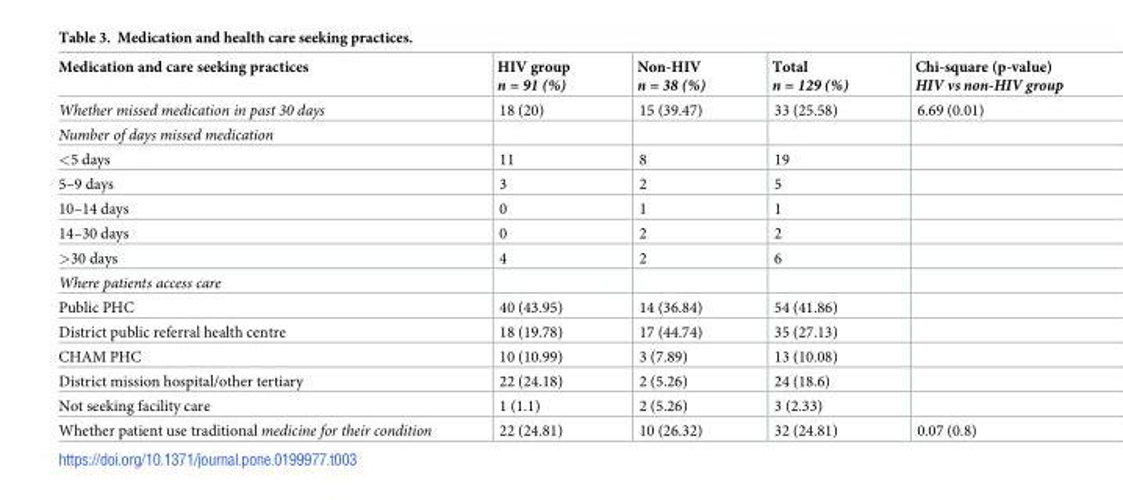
<table><thead><tr><td>Medication and care seeking practices</td><td>HIV group n = 91 (%)</td><td>Non-HIV n = 38 (%)</td><td>Total n = 129 (%)</td><td>Chi-square (p-value) HIV vs non-HIV group</td></tr></thead><tbody><tr><td>Whether missed medication in past 30 days</td><td>18 (20)</td><td>15 (39.47)</td><td>33 (25.58)</td><td>6.69 (0.01)</td></tr><tr><td colspan="5">Number of days missed medication</td></tr><tr><td>&lt;5 days</td><td>11</td><td>8</td><td>19</td><td></td></tr><tr><td>5–9 days</td><td>3</td><td>2</td><td>5</td><td></td></tr><tr><td>10–14 days</td><td>0</td><td>1</td><td>1</td><td></td></tr><tr><td>14–30 days</td><td>0</td><td>2</td><td>2</td><td></td></tr><tr><td>&gt;30 days</td><td>4</td><td>2</td><td>6</td><td></td></tr><tr><td colspan="5">Where patients access care</td></tr><tr><td>Public PHC</td><td>40 (43.95)</td><td>14 (36.84)</td><td>54 (41.86)</td><td></td></tr><tr><td>District public referral health centre</td><td>18 (19.78)</td><td>17 (44.74)</td><td>35 (27.13)</td><td></td></tr><tr><td>CHAM PHC</td><td>10 (10.99)</td><td>3 (7.89)</td><td>13 (10.08)</td><td></td></tr><tr><td>District mission hospital/other tertiary</td><td>22 (24.18)</td><td>2 (5.26)</td><td>24 (18.6)</td><td></td></tr><tr><td>Not seeking facility care</td><td>1 (1.1)</td><td>2 (5.26)</td><td>3 (2.33)</td><td></td></tr><tr><td>Whether patient use traditional medicine for their condition</td><td>22 (24.81)</td><td>10 (26.32)</td><td>32 (24.81)</td><td>0.07 (0.8)</td></tr></tbody></table>